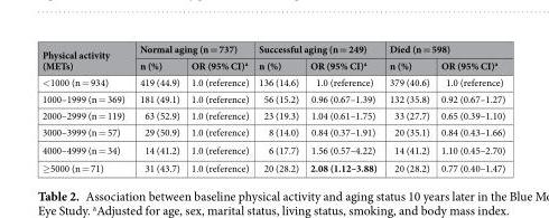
<table><thead><tr><td rowspan="2">Physical activity (METs)</td><td colspan="2">Normal aging (n = 737)</td><td colspan="2">Successful aging (n = 249)</td><td colspan="2">Died (n = 598)</td></tr><tr><td>n (%)</td><td>OR (95% CI)<sup>a</sup></td><td>n (%)</td><td>OR (95% CI)<sup>a</sup></td><td>n (%)</td><td>OR (95% CI)<sup>a</sup></td></tr></thead><tbody><tr><td>&lt;1000 (n = 934)</td><td>419 (44.9)</td><td>1.0 (reference)</td><td>136 (14.6)</td><td>1.0 (reference)</td><td>379 (40.6)</td><td>1.0 (reference)</td></tr><tr><td>1000–1999 (n = 369)</td><td>181 (49.1)</td><td>1.0 (reference)</td><td>56 (15.2)</td><td>0.96 (0.67–1.39)</td><td>132 (35.8)</td><td>0.92 (0.67–1.27)</td></tr><tr><td>2000–2999 (n = 119)</td><td>63 (52.9)</td><td>1.0 (reference)</td><td>23 (19.3)</td><td>1.04 (0.61–1.75)</td><td>33 (27.7)</td><td>0.65 (0.39–1.10)</td></tr><tr><td>3000–3999 (n = 57)</td><td>29 (50.9)</td><td>1.0 (reference)</td><td>8 (14.0)</td><td>0.84 (0.37–1.91)</td><td>20 (35.1)</td><td>0.84 (0.43–1.66)</td></tr><tr><td>4000–4999 (n = 34)</td><td>14 (41.2)</td><td>1.0 (reference)</td><td>6 (17.7)</td><td>1.56 (0.57–4.22)</td><td>14 (41.2)</td><td>1.10 (0.45–2.70)</td></tr><tr><td>≥5000 (n = 71)</td><td>31 (43.7)</td><td>1.0 (reference)</td><td>20 (28.2)</td><td>2.08 (1.12–3.88)</td><td>20 (28.2)</td><td>0.77 (0.40–1.47)</td></tr></tbody></table>